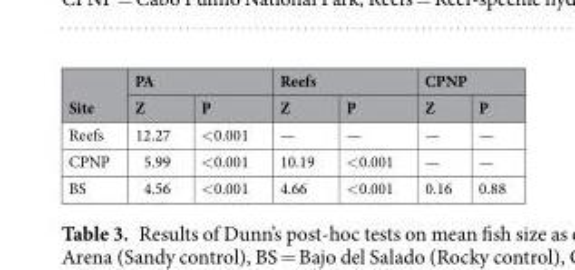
<table><thead><tr><td rowspan="2">Site</td><td colspan="2">PA</td><td colspan="2">Reefs</td><td colspan="2">CPNP</td></tr><tr><td>Z</td><td>P</td><td>Z</td><td>P</td><td>Z</td><td>P</td></tr></thead><tbody><tr><td>Reefs</td><td>12.27</td><td>&lt;0.001</td><td>—</td><td>—</td><td>—</td><td>—</td></tr><tr><td>CPNP</td><td>5.99</td><td>&lt;0.001</td><td>10.19</td><td>&lt;0.001</td><td>—</td><td>—</td></tr><tr><td>BS</td><td>4.56</td><td>&lt;0.001</td><td>4.66</td><td>&lt;0.001</td><td>0.16</td><td>0.88</td></tr></tbody></table>